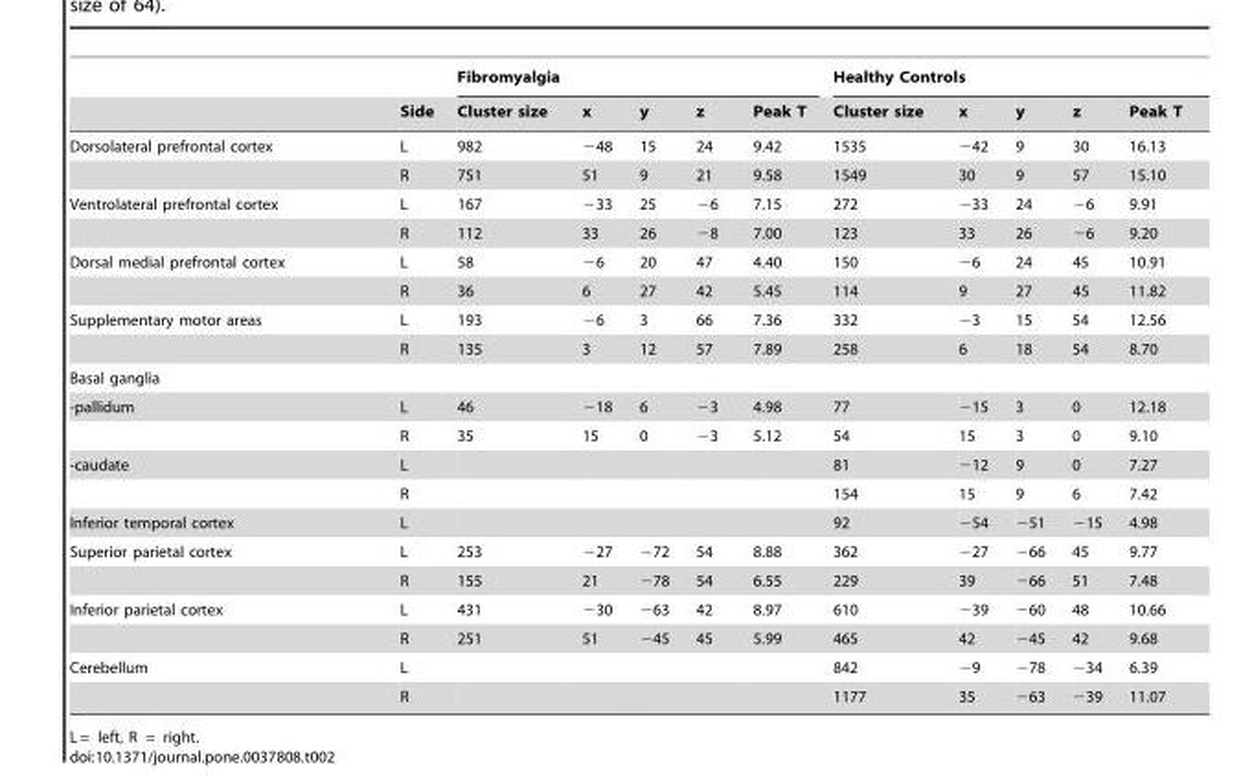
<table><thead><tr><td rowspan="2"></td><td rowspan="2">Side</td><td colspan="5">Fibromyalgia</td><td colspan="5">Healthy Controls</td></tr><tr><td>Cluster size</td><td>x</td><td>y</td><td>z</td><td>Peak T</td><td>Cluster size</td><td>x</td><td>y</td><td>z</td><td>Peak T</td></tr></thead><tbody><tr><td rowspan="2">Dorsolateral prefrontal cortex</td><td>L</td><td>982</td><td>−48</td><td>15</td><td>24</td><td>9.42</td><td>1535</td><td>−42</td><td>9</td><td>30</td><td>16.13</td></tr><tr><td>R</td><td>751</td><td>51</td><td>9</td><td>21</td><td>9.58</td><td>1549</td><td>30</td><td>9</td><td>57</td><td>15.10</td></tr><tr><td rowspan="2">Ventrolateral prefrontal cortex</td><td>L</td><td>167</td><td>−33</td><td>25</td><td>−6</td><td>7.15</td><td>272</td><td>−33</td><td>24</td><td>−6</td><td>9.91</td></tr><tr><td>R</td><td>112</td><td>33</td><td>26</td><td>−8</td><td>7.00</td><td>123</td><td>33</td><td>26</td><td>−6</td><td>9.20</td></tr><tr><td rowspan="2">Dorsal medial prefrontal cortex</td><td>L</td><td>58</td><td>−6</td><td>20</td><td>47</td><td>4.40</td><td>150</td><td>−6</td><td>24</td><td>45</td><td>10.91</td></tr><tr><td>R</td><td>36</td><td>6</td><td>27</td><td>42</td><td>5.45</td><td>114</td><td>9</td><td>27</td><td>45</td><td>11.82</td></tr><tr><td rowspan="2">Supplementary motor areas</td><td>L</td><td>193</td><td>−6</td><td>3</td><td>66</td><td>7.36</td><td>332</td><td>−3</td><td>15</td><td>54</td><td>12.56</td></tr><tr><td>R</td><td>135</td><td>3</td><td>12</td><td>57</td><td>7.89</td><td>258</td><td>6</td><td>18</td><td>54</td><td>8.70</td></tr><tr><td colspan="12">Basal ganglia</td></tr><tr><td rowspan="2">-pallidum</td><td>L</td><td>46</td><td>−18</td><td>6</td><td>−3</td><td>4.98</td><td>77</td><td>−15</td><td>3</td><td>0</td><td>12.18</td></tr><tr><td>R</td><td>35</td><td>15</td><td>0</td><td>−3</td><td>5.12</td><td>54</td><td>15</td><td>3</td><td>0</td><td>9.10</td></tr><tr><td rowspan="2">-caudate</td><td>L</td><td></td><td></td><td></td><td></td><td></td><td>81</td><td>−12</td><td>9</td><td>0</td><td>7.27</td></tr><tr><td>R</td><td></td><td></td><td></td><td></td><td></td><td>154</td><td>15</td><td>9</td><td>6</td><td>7.42</td></tr><tr><td>Inferior temporal cortex</td><td>L</td><td></td><td></td><td></td><td></td><td></td><td>92</td><td>−54</td><td>−51</td><td>−15</td><td>4.98</td></tr><tr><td rowspan="2">Superior parietal cortex</td><td>L</td><td>253</td><td>−27</td><td>−72</td><td>54</td><td>8.88</td><td>362</td><td>−27</td><td>−66</td><td>45</td><td>9.77</td></tr><tr><td>R</td><td>155</td><td>21</td><td>−78</td><td>54</td><td>6.55</td><td>229</td><td>39</td><td>−66</td><td>51</td><td>7.48</td></tr><tr><td rowspan="2">Inferior parietal cortex</td><td>L</td><td>431</td><td>−30</td><td>−63</td><td>42</td><td>8.97</td><td>610</td><td>−39</td><td>−60</td><td>48</td><td>10.66</td></tr><tr><td>R</td><td>251</td><td>51</td><td>−45</td><td>45</td><td>5.99</td><td>465</td><td>42</td><td>−45</td><td>42</td><td>9.68</td></tr><tr><td rowspan="2">Cerebellum</td><td>L</td><td></td><td></td><td></td><td></td><td></td><td>842</td><td>−9</td><td>−78</td><td>−34</td><td>6.39</td></tr><tr><td>R</td><td></td><td></td><td></td><td></td><td></td><td>1177</td><td>35</td><td>−63</td><td>−39</td><td>11.07</td></tr></tbody></table>